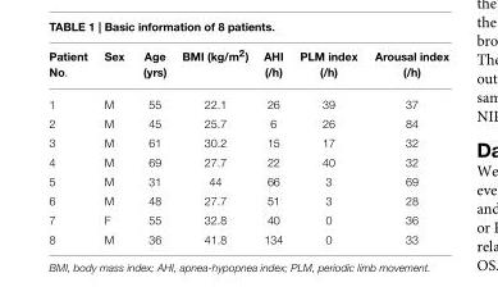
<table><thead><tr><td>Patient No.</td><td>Sex</td><td>Age (yrs)</td><td>BMI (kg/m<sup>2</sup>)</td><td>AHI (/h)</td><td>PLM index (/h)</td><td>Arousal index (/h)</td></tr></thead><tbody><tr><td>1</td><td>M</td><td>55</td><td>22.1</td><td>26</td><td>39</td><td>37</td></tr><tr><td>2</td><td>M</td><td>45</td><td>25.7</td><td>6</td><td>26</td><td>84</td></tr><tr><td>3</td><td>M</td><td>61</td><td>30.2</td><td>15</td><td>17</td><td>32</td></tr><tr><td>4</td><td>M</td><td>69</td><td>27.7</td><td>22</td><td>40</td><td>32</td></tr><tr><td>5</td><td>M</td><td>31</td><td>44</td><td>66</td><td>3</td><td>69</td></tr><tr><td>6</td><td>M</td><td>48</td><td>27.7</td><td>51</td><td>3</td><td>28</td></tr><tr><td>7</td><td>F</td><td>55</td><td>32.8</td><td>40</td><td>0</td><td>36</td></tr><tr><td>8</td><td>M</td><td>36</td><td>41.8</td><td>134</td><td>0</td><td>33</td></tr></tbody></table>